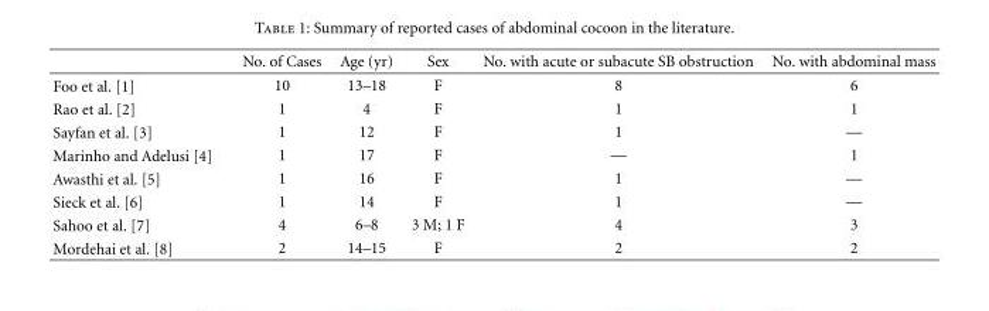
<table><thead><tr><td></td><td>No. of Cases</td><td>Age (yr)</td><td>Sex</td><td>No. with acute or subacute SB obstruction</td><td>No. with abdominal mass</td></tr></thead><tbody><tr><td>Foo et al. [1]</td><td>10</td><td>13–18</td><td>F</td><td>8</td><td>6</td></tr><tr><td>Rao et al. [2]</td><td>1</td><td>4</td><td>F</td><td>1</td><td>1</td></tr><tr><td>Sayfan et al. [3]</td><td>1</td><td>12</td><td>F</td><td>1</td><td>—</td></tr><tr><td>Marinho and Adelusi [4]</td><td>1</td><td>17</td><td>F</td><td>—</td><td>1</td></tr><tr><td>Awasthi et al. [5]</td><td>1</td><td>16</td><td>F</td><td>1</td><td>—</td></tr><tr><td>Sieck et al. [6]</td><td>1</td><td>14</td><td>F</td><td>1</td><td>—</td></tr><tr><td>Sahoo et al. [7]</td><td>4</td><td>6–8</td><td>3 M; 1 F</td><td>4</td><td>3</td></tr><tr><td>Mordehai et al. [8]</td><td>2</td><td>14–15</td><td>F</td><td>2</td><td>2</td></tr></tbody></table>